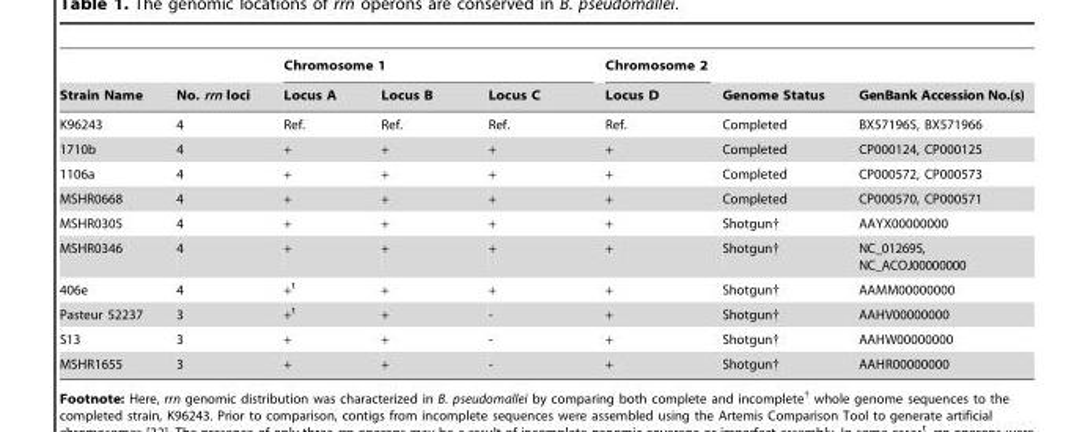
<table><thead><tr><td rowspan="2">Strain Name</td><td rowspan="2">No. rrn loci</td><td colspan="3">Chromosome 1</td><td rowspan="2">Chromosome 2 Locus D</td><td rowspan="2">Genome Status</td><td rowspan="2">GenBank Accession No.(s)</td></tr><tr><td>Locus A</td><td>Locus B</td><td>Locus C</td></tr></thead><tbody><tr><td>K96243</td><td>4</td><td>Ref.</td><td>Ref.</td><td>Ref.</td><td>Ref.</td><td>Completed</td><td>BX571965, BX571966</td></tr><tr><td>1710b</td><td>4</td><td>+</td><td>+</td><td>+</td><td>+</td><td>Completed</td><td>CP000124, CP000125</td></tr><tr><td>1106a</td><td>4</td><td>+</td><td>+</td><td>+</td><td>+</td><td>Completed</td><td>CP000572, CP000573</td></tr><tr><td>MSHR0668</td><td>4</td><td>+</td><td>+</td><td>+</td><td>+</td><td>Completed</td><td>CP000570, CP000571</td></tr><tr><td>MSHR0305</td><td>4</td><td>+</td><td>+</td><td>+</td><td>+</td><td>Shotgun†</td><td>AAYX00000000</td></tr><tr><td>MSHR0346</td><td>4</td><td>+</td><td>+</td><td>+</td><td>+</td><td>Shotgun†</td><td>NC_012695, NC_ACOJ00000000</td></tr><tr><td>406e</td><td>4</td><td>+<sup>t</sup></td><td>+</td><td>+</td><td>+</td><td>Shotgun†</td><td>AAMM00000000</td></tr><tr><td>Pasteur 52237</td><td>3</td><td>+<sup>t</sup></td><td>+</td><td>-</td><td>+</td><td>Shotgun†</td><td>AAHV00000000</td></tr><tr><td>S13</td><td>3</td><td>+</td><td>+</td><td>-</td><td>+</td><td>Shotgun†</td><td>AAHW00000000</td></tr><tr><td>MSHR1655</td><td>3</td><td>+</td><td>+</td><td>-</td><td>+</td><td>Shotgun†</td><td>AAHR00000000</td></tr></tbody></table>